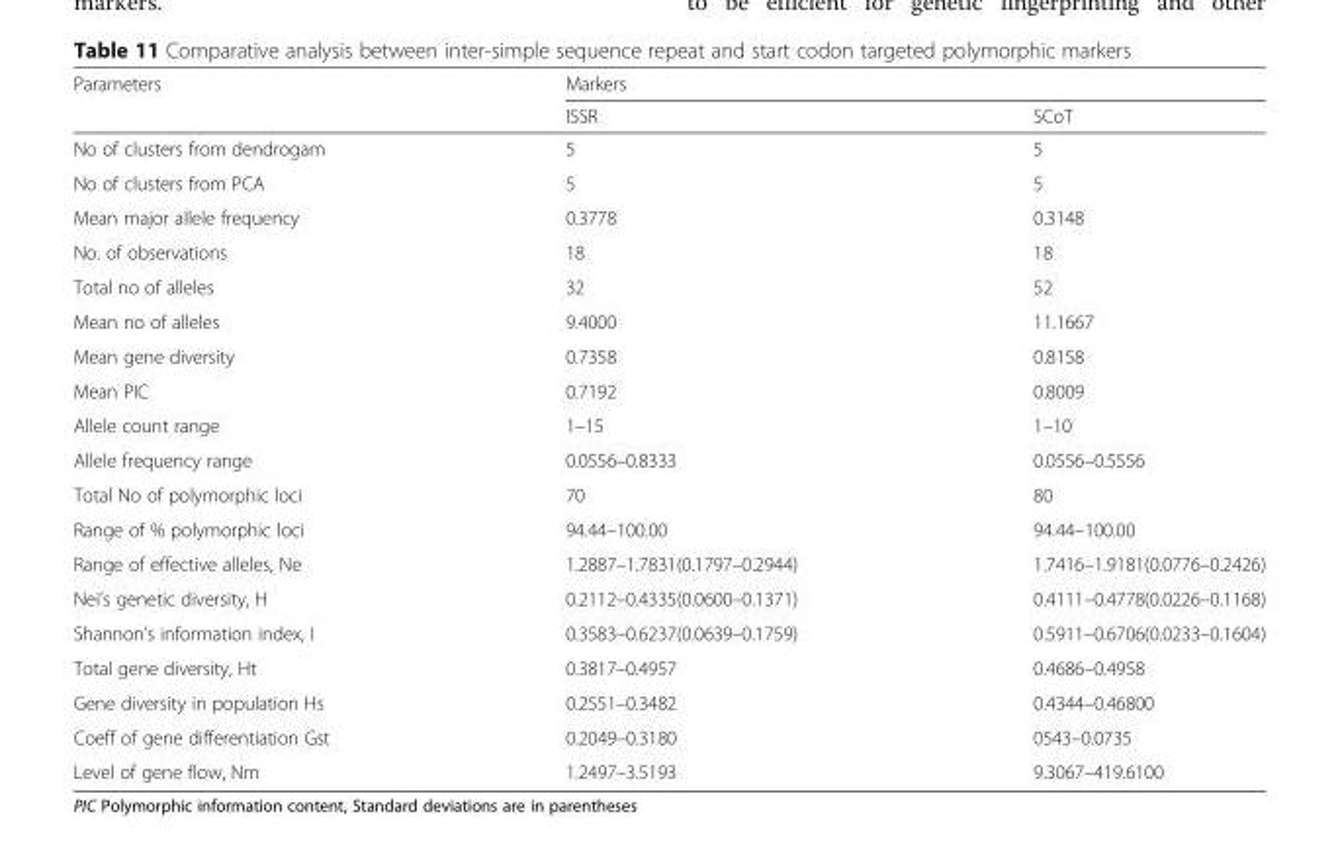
<table><thead><tr><td rowspan="2">Parameters</td><td colspan="2">Markers</td></tr><tr><td>ISSR</td><td>SCoT</td></tr></thead><tbody><tr><td>No of clusters from dendrogam</td><td>5</td><td>5</td></tr><tr><td>No of clusters from PCA</td><td>5</td><td>5</td></tr><tr><td>Mean major allele frequency</td><td>0.3778</td><td>0.3148</td></tr><tr><td>No. of observations</td><td>18</td><td>18</td></tr><tr><td>Total no of alleles</td><td>32</td><td>52</td></tr><tr><td>Mean no of alleles</td><td>9.4000</td><td>11.1667</td></tr><tr><td>Mean gene diversity</td><td>0.7358</td><td>0.8158</td></tr><tr><td>Mean PIC</td><td>0.7192</td><td>0.8009</td></tr><tr><td>Allele count range</td><td>1–15</td><td>1–10</td></tr><tr><td>Allele frequency range</td><td>0.0556–0.8333</td><td>0.0556–0.5556</td></tr><tr><td>Total No of polymorphic loci</td><td>70</td><td>80</td></tr><tr><td>Range of % polymorphic loci</td><td>94.44–100.00</td><td>94.44–100.00</td></tr><tr><td>Range of effective alleles, Ne</td><td>1.2887–1.7831(0.1797–0.2944)</td><td>1.7416–1.9181(0.0776–0.2426)</td></tr><tr><td>Nei’s genetic diversity, H</td><td>0.2112–0.4335(0.0600–0.1371)</td><td>0.4111–0.4778(0.0226–0.1168)</td></tr><tr><td>Shannon’s information index, I</td><td>0.3583–0.6237(0.0639–0.1759)</td><td>0.5911–0.6706(0.0233–0.1604)</td></tr><tr><td>Total gene diversity, Ht</td><td>0.3817–0.4957</td><td>0.4686–0.4958</td></tr><tr><td>Gene diversity in population Hs</td><td>0.2551–0.3482</td><td>0.4344–0.46800</td></tr><tr><td>Coeff of gene differentiation Gst</td><td>0.2049–0.3180</td><td>0543–0.0735</td></tr><tr><td>Level of gene flow, Nm</td><td>1.2497–3.5193</td><td>9.3067–419.6100</td></tr></tbody></table>